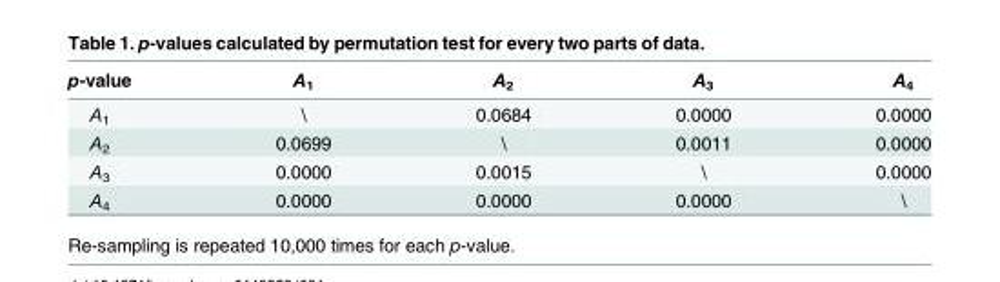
<table><thead><tr><td>p-value</td><td>A<sub>1</sub></td><td>A<sub>2</sub></td><td>A<sub>3</sub></td><td>A<sub>4</sub></td></tr></thead><tbody><tr><td>A<sub>1</sub></td><td>\</td><td>0.0684</td><td>0.0000</td><td>0.0000</td></tr><tr><td>A<sub>2</sub></td><td>0.0699</td><td>\</td><td>0.0011</td><td>0.0000</td></tr><tr><td>A<sub>3</sub></td><td>0.0000</td><td>0.0015</td><td>\</td><td>0.0000</td></tr><tr><td>A<sub>4</sub></td><td>0.0000</td><td>0.0000</td><td>0.0000</td><td>\</td></tr></tbody></table>